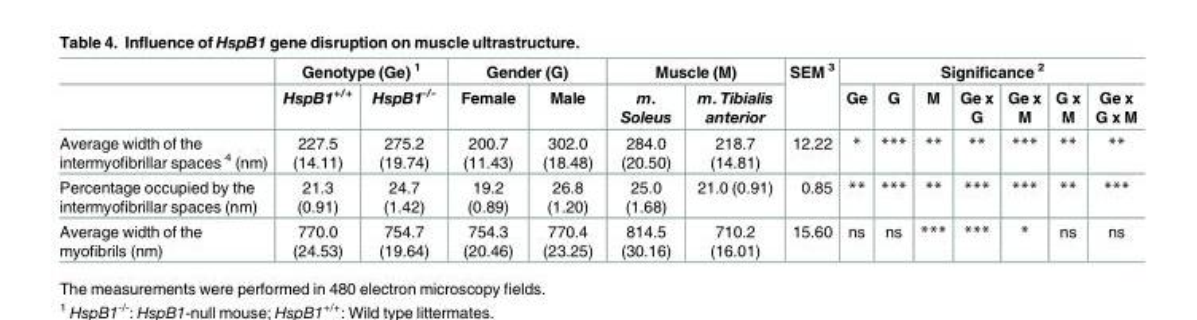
<table><thead><tr><td rowspan="2"></td><td colspan="2">Genotype (Ge) <sup>1</sup></td><td colspan="2">Gender (G)</td><td colspan="2">Muscle (M)</td><td rowspan="2">SEM <sup>3</sup></td><td colspan="7">Significance <sup>2</sup></td></tr><tr><td>HspB1<sup>+/+</sup></td><td>HspB1<sup>-/-</sup></td><td>Female</td><td>Male</td><td>m. Soleus</td><td>m. Tibialis anterior</td><td>Ge</td><td>G</td><td>M</td><td>Ge x G</td><td>Ge x M</td><td>G x M</td><td>Ge x G x M</td></tr></thead><tbody><tr><td>Average width of the intermyofibrillar spaces <sup>4</sup> (nm)</td><td>227.5 (14.11)</td><td>275.2 (19.74)</td><td>200.7 (11.43)</td><td>302.0 (18.48)</td><td>284.0 (20.50)</td><td>218.7 (14.81)</td><td>12.22</td><td>*</td><td>***</td><td>**</td><td>**</td><td>***</td><td>**</td><td>**</td></tr><tr><td>Percentage occupied by the intermyofibrillar spaces (nm)</td><td>21.3 (0.91)</td><td>24.7 (1.42)</td><td>19.2 (0.89)</td><td>26.8 (1.20)</td><td>25.0 (1.68)</td><td>21.0 (0.91)</td><td>0.85</td><td>**</td><td>***</td><td>**</td><td>***</td><td>***</td><td>**</td><td>***</td></tr><tr><td>Average width of the myofibrils (nm)</td><td>770.0 (24.53)</td><td>754.7 (19.64)</td><td>754.3 (20.46)</td><td>770.4 (23.25)</td><td>814.5 (30.16)</td><td>710.2 (16.01)</td><td>15.60</td><td>ns</td><td>ns</td><td>***</td><td>***</td><td>*</td><td>ns</td><td>ns</td></tr></tbody></table>